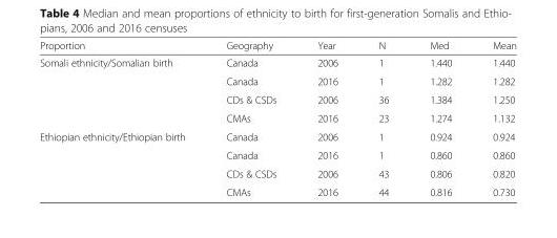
<table><thead><tr><td>Proportion</td><td>Geography</td><td>Year</td><td>N</td><td>Med</td><td>Mean</td></tr></thead><tbody><tr><td rowspan="4">Somali ethnicity/Somalian birth</td><td>Canada</td><td>2006</td><td>1</td><td>1.440</td><td>1.440</td></tr><tr><td>Canada</td><td>2016</td><td>1</td><td>1.282</td><td>1.282</td></tr><tr><td>CDs &amp; CSDs</td><td>2006</td><td>36</td><td>1.384</td><td>1.250</td></tr><tr><td>CMAs</td><td>2016</td><td>23</td><td>1.274</td><td>1.132</td></tr><tr><td rowspan="4">Ethiopian ethnicity/Ethiopian birth</td><td>Canada</td><td>2006</td><td>1</td><td>0.924</td><td>0.924</td></tr><tr><td>Canada</td><td>2016</td><td>1</td><td>0.860</td><td>0.860</td></tr><tr><td>CDs &amp; CSDs</td><td>2006</td><td>43</td><td>0.806</td><td>0.820</td></tr><tr><td>CMAs</td><td>2016</td><td>44</td><td>0.816</td><td>0.730</td></tr></tbody></table>